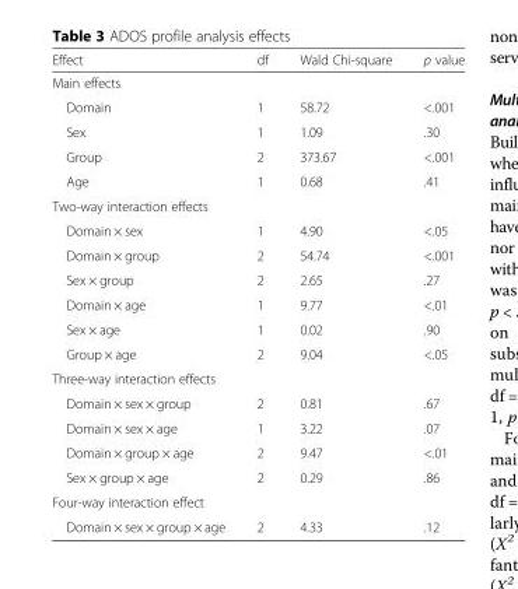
<table><thead><tr><td>Effect</td><td>df</td><td>Wald Chi-square</td><td>p value</td></tr></thead><tbody><tr><td colspan="4">Main effects</td></tr><tr><td>Domain</td><td>1</td><td>58.72</td><td>&lt;.001</td></tr><tr><td>Sex</td><td>1</td><td>1.09</td><td>.30</td></tr><tr><td>Group</td><td>2</td><td>373.67</td><td>&lt;.001</td></tr><tr><td>Age</td><td>1</td><td>0.68</td><td>.41</td></tr><tr><td colspan="4">Two-way interaction effects</td></tr><tr><td>Domain × sex</td><td>1</td><td>4.90</td><td>&lt;.05</td></tr><tr><td>Domain × group</td><td>2</td><td>54.74</td><td>&lt;.001</td></tr><tr><td>Sex × group</td><td>2</td><td>2.65</td><td>.27</td></tr><tr><td>Domain × age</td><td>1</td><td>9.77</td><td>&lt;.01</td></tr><tr><td>Sex × age</td><td>1</td><td>0.02</td><td>.90</td></tr><tr><td>Group × age</td><td>2</td><td>9.04</td><td>&lt;.05</td></tr><tr><td colspan="4">Three-way interaction effects</td></tr><tr><td>Domain × sex × group</td><td>2</td><td>0.81</td><td>.67</td></tr><tr><td>Domain × sex × age</td><td>1</td><td>3.22</td><td>.07</td></tr><tr><td>Domain × group × age</td><td>2</td><td>9.47</td><td>&lt;.01</td></tr><tr><td>Sex × group × age</td><td>2</td><td>0.29</td><td>.86</td></tr><tr><td colspan="4">Four-way interaction effect</td></tr><tr><td>Domain × sex × group × age</td><td>2</td><td>4.33</td><td>.12</td></tr></tbody></table>